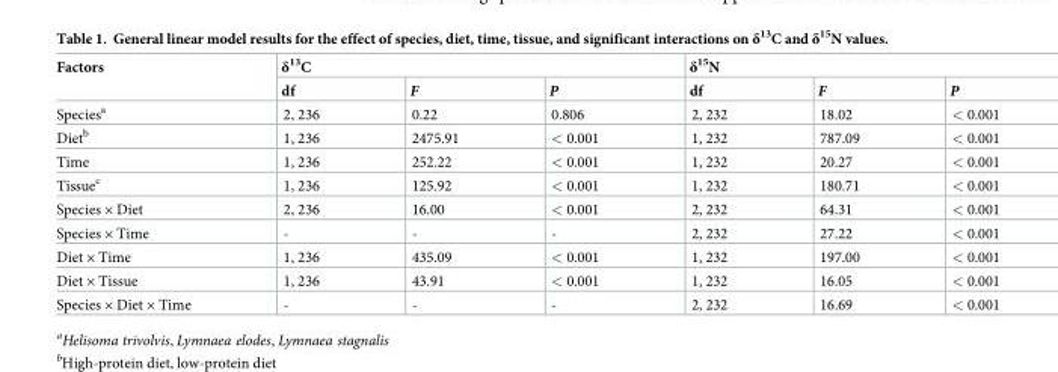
<table><thead><tr><td rowspan="2">Factors</td><td colspan="3">δ<sup>13</sup>C</td><td colspan="3">δ<sup>15</sup>N</td></tr><tr><td>df</td><td>F</td><td>P</td><td>df</td><td>F</td><td>P</td></tr></thead><tbody><tr><td>Species<sup>a</sup></td><td>2, 236</td><td>0.22</td><td>0.806</td><td>2, 232</td><td>18.02</td><td>&lt; 0.001</td></tr><tr><td>Diet<sup>b</sup></td><td>1, 236</td><td>2475.91</td><td>&lt; 0.001</td><td>1, 232</td><td>787.09</td><td>&lt; 0.001</td></tr><tr><td>Time</td><td>1, 236</td><td>252.22</td><td>&lt; 0.001</td><td>1, 232</td><td>20.27</td><td>&lt; 0.001</td></tr><tr><td>Tissue<sup>c</sup></td><td>1, 236</td><td>125.92</td><td>&lt; 0.001</td><td>1, 232</td><td>180.71</td><td>&lt; 0.001</td></tr><tr><td>Species × Diet</td><td>2, 236</td><td>16.00</td><td>&lt; 0.001</td><td>2, 232</td><td>64.31</td><td>&lt; 0.001</td></tr><tr><td>Species × Time</td><td>-</td><td>-</td><td>-</td><td>2, 232</td><td>27.22</td><td>&lt; 0.001</td></tr><tr><td>Diet × Time</td><td>1, 236</td><td>435.09</td><td>&lt; 0.001</td><td>1, 232</td><td>197.00</td><td>&lt; 0.001</td></tr><tr><td>Diet × Tissue</td><td>1, 236</td><td>43.91</td><td>&lt; 0.001</td><td>1, 232</td><td>16.05</td><td>&lt; 0.001</td></tr><tr><td>Species × Diet × Time</td><td>-</td><td>-</td><td>-</td><td>2, 232</td><td>16.69</td><td>&lt; 0.001</td></tr></tbody></table>